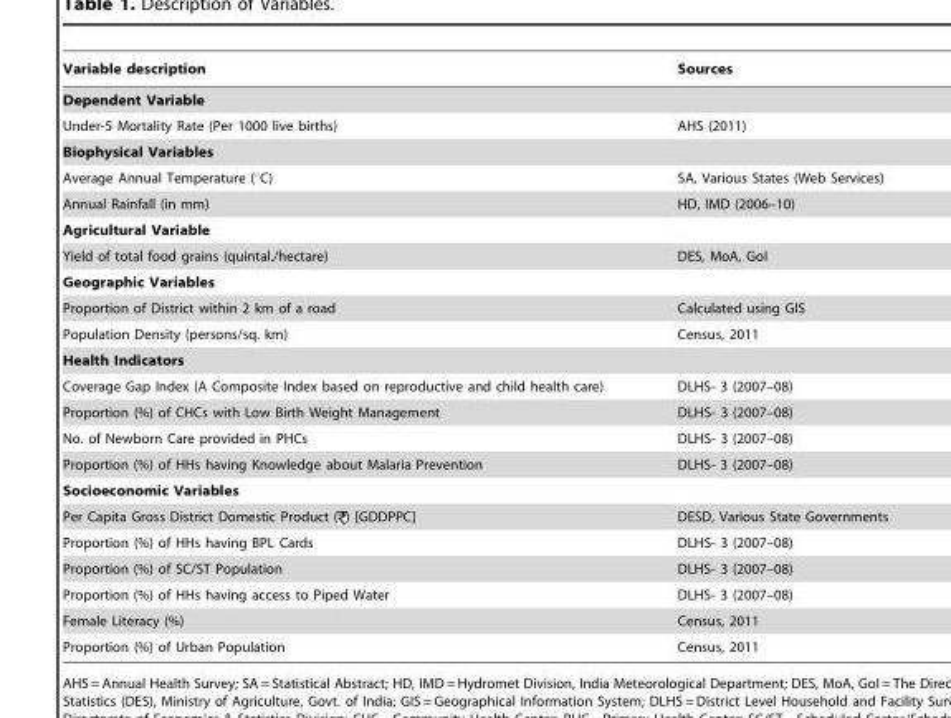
<table><thead><tr><td>Variable description</td><td>Sources</td></tr></thead><tbody><tr><td colspan="2">Dependent Variable</td></tr><tr><td>Under-5 Mortality Rate (Per 1000 live births)</td><td>AHS (2011)</td></tr><tr><td colspan="2">Biophysical Variables</td></tr><tr><td>Average Annual Temperature (°C)</td><td>SA, Various States (Web Services)</td></tr><tr><td>Annual Rainfall (in mm)</td><td>HD, IMD (2006–10)</td></tr><tr><td colspan="2">Agricultural Variable</td></tr><tr><td>Yield of total food grains (quintal./hectare)</td><td>DES, MoA, GoI</td></tr><tr><td colspan="2">Geographic Variables</td></tr><tr><td>Proportion of District within 2 km of a road</td><td>Calculated using GIS</td></tr><tr><td>Population Density (persons/sq. km)</td><td>Census, 2011</td></tr><tr><td colspan="2">Health Indicators</td></tr><tr><td>Coverage Gap Index (A Composite Index based on reproductive and child health care)</td><td>DLHS- 3 (2007–08)</td></tr><tr><td>Proportion (%) of CHCs with Low Birth Weight Management</td><td>DLHS- 3 (2007–08)</td></tr><tr><td>No. of Newborn Care provided in PHCs</td><td>DLHS- 3 (2007–08)</td></tr><tr><td>Proportion (%) of HHs having Knowledge about Malaria Prevention</td><td>DLHS- 3 (2007–08)</td></tr><tr><td colspan="2">Socioeconomic Variables</td></tr><tr><td>Per Capita Gross District Domestic Product ( ) [GDDPPC]</td><td>DESD, Various State Governments</td></tr><tr><td>Proportion (%) of HHs having BPL Cards</td><td>DLHS- 3 (2007–08)</td></tr><tr><td>Proportion (%) of SC/ST Population</td><td>DLHS- 3 (2007–08)</td></tr><tr><td>Proportion (%) of HHs having access to Piped Water</td><td>DLHS- 3 (2007–08)</td></tr><tr><td>Female Literacy (%)</td><td>Census, 2011</td></tr><tr><td>Proportion (%) of Urban Population</td><td>Census, 2011</td></tr></tbody></table>